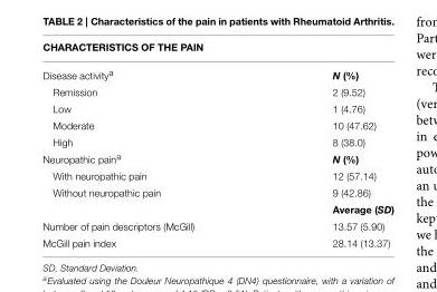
<table><thead><tr><td colspan="2">CHARACTERISTICS OF THE PAIN</td></tr><tr><td>Disease activity<sup>a</sup></td><td>N (%)</td></tr></thead><tbody><tr><td>Remission</td><td>2 (9.52)</td></tr><tr><td>Low</td><td>1 (4.76)</td></tr><tr><td>Moderate</td><td>10 (47.62)</td></tr><tr><td>High</td><td>8 (38.0)</td></tr><tr><td>Neuropathic pain<sup>a</sup></td><td>N (%)</td></tr><tr><td>With neuropathic pain</td><td>12 (57.14)</td></tr><tr><td rowspan="2">Without neuropathic pain</td><td>9 (42.86)</td></tr><tr><td>Average (SD)</td></tr><tr><td>Number of pain descriptors (McGill)</td><td>13.57 (5.90)</td></tr><tr><td>McGill pain index</td><td>28.14 (13.37)</td></tr></tbody></table>